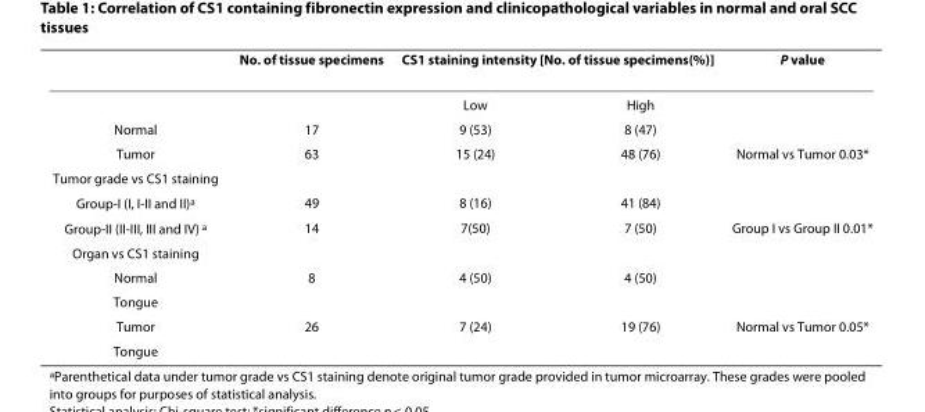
<table><thead><tr><td rowspan="2"></td><td rowspan="2">No. of tissue specimens</td><td colspan="2">CS1 staining intensity [No. of tissue specimens(%)]</td><td rowspan="2">P value</td></tr><tr><td>Low</td><td>High</td></tr></thead><tbody><tr><td>Normal</td><td>17</td><td>9 (53)</td><td>8 (47)</td><td></td></tr><tr><td>Tumor</td><td>63</td><td>15 (24)</td><td>48 (76)</td><td>Normal vs Tumor 0.03*</td></tr><tr><td colspan="5">Tumor grade vs CS1 staining</td></tr><tr><td>Group-I (I, I-II and II)<sup>a</sup></td><td>49</td><td>8 (16)</td><td>41 (84)</td><td></td></tr><tr><td>Group-II (II-III, III and IV) <sup>a</sup></td><td>14</td><td>7(50)</td><td>7 (50)</td><td>Group I vs Group II 0.01*</td></tr><tr><td colspan="5">Organ vs CS1 staining</td></tr><tr><td>Normal</td><td>8</td><td>4 (50)</td><td>4 (50)</td><td></td></tr><tr><td colspan="5">Tongue</td></tr><tr><td>Tumor</td><td>26</td><td>7 (24)</td><td>19 (76)</td><td>Normal vs Tumor 0.05*</td></tr><tr><td>Tongue</td><td></td><td></td><td></td><td></td></tr></tbody></table>